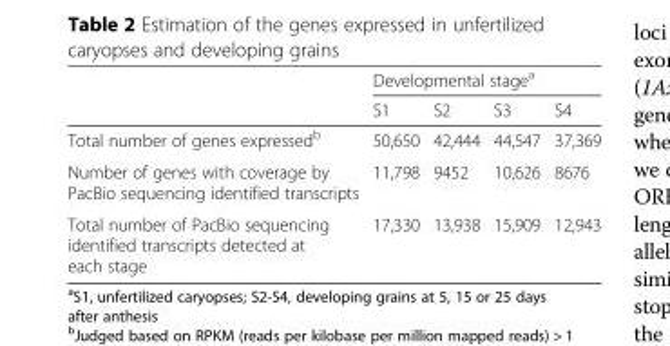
<table><thead><tr><td rowspan="2"></td><td colspan="4">Developmental stage<sup>a</sup></td></tr><tr><td>S1</td><td>S2</td><td>S3</td><td>S4</td></tr></thead><tbody><tr><td>Total number of genes expressed<sup>b</sup></td><td>50,650</td><td>42,444</td><td>44,547</td><td>37,369</td></tr><tr><td>Number of genes with coverage by PacBio sequencing identified transcripts</td><td>11,798</td><td>9452</td><td>10,626</td><td>8676</td></tr><tr><td>Total number of PacBio sequencing identified transcripts detected at each stage</td><td>17,330</td><td>13,938</td><td>15,909</td><td>12,943</td></tr></tbody></table>